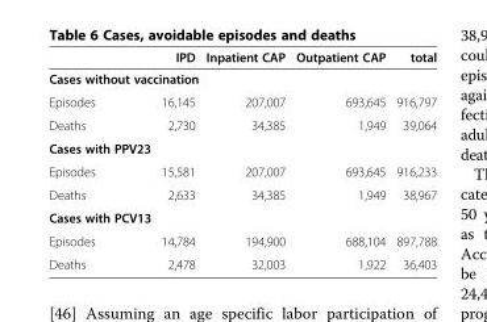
<table><thead><tr><td></td><td>IPD</td><td>Inpatient CAP</td><td>Outpatient CAP</td><td>total</td></tr></thead><tbody><tr><td colspan="5">Cases without vaccination</td></tr><tr><td>Episodes</td><td>16,145</td><td>207,007</td><td>693,645</td><td>916,797</td></tr><tr><td>Deaths</td><td>2,730</td><td>34,385</td><td>1,949</td><td>39,064</td></tr><tr><td colspan="5">Cases with PPV23</td></tr><tr><td>Episodes</td><td>15,581</td><td>207,007</td><td>693,645</td><td>916,233</td></tr><tr><td>Deaths</td><td>2,633</td><td>34,385</td><td>1,949</td><td>38,967</td></tr><tr><td colspan="5">Cases with PCV13</td></tr><tr><td>Episodes</td><td>14,784</td><td>194,900</td><td>688,104</td><td>897,788</td></tr><tr><td>Deaths</td><td>2,478</td><td>32,003</td><td>1,922</td><td>36,403</td></tr></tbody></table>